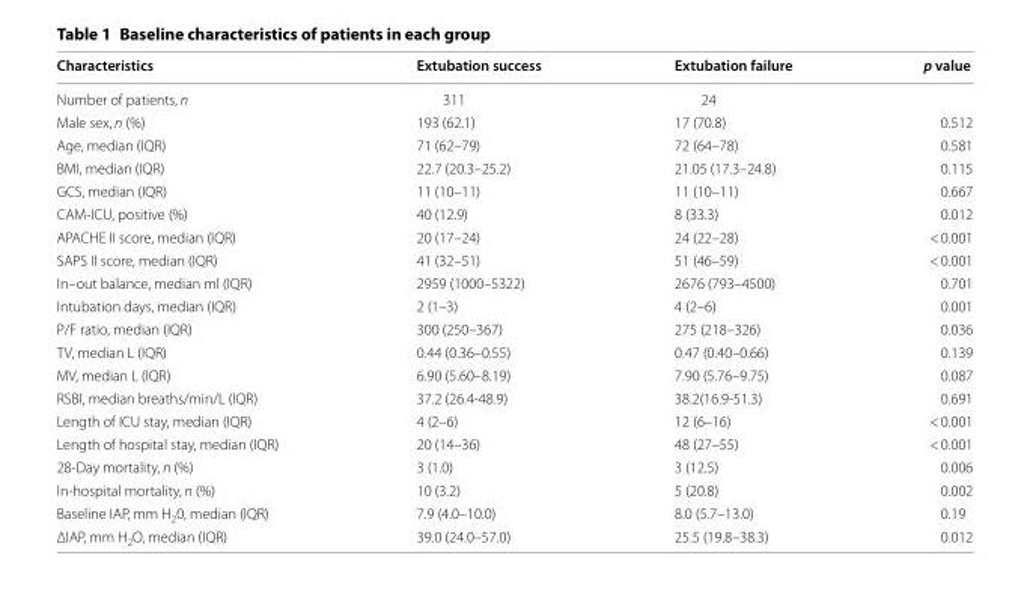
<table><thead><tr><td>Characteristics</td><td>Extubation success</td><td>Extubation failure</td><td>p value</td></tr></thead><tbody><tr><td>Number of patients, n</td><td>311</td><td>24</td><td></td></tr><tr><td>Male sex, n (%)</td><td>193 (62.1)</td><td>17 (70.8)</td><td>0.512</td></tr><tr><td>Age, median (IQR)</td><td>71 (62–79)</td><td>72 (64–78)</td><td>0.581</td></tr><tr><td>BMI, median (IQR)</td><td>22.7 (20.3–25.2)</td><td>21.05 (17.3–24.8)</td><td>0.115</td></tr><tr><td>GCS, median (IQR)</td><td>11 (10–11)</td><td>11 (10–11)</td><td>0.667</td></tr><tr><td>CAM-ICU, positive (%)</td><td>40 (12.9)</td><td>8 (33.3)</td><td>0.012</td></tr><tr><td>APACHE II score, median (IQR)</td><td>20 (17–24)</td><td>24 (22–28)</td><td>&lt; 0.001</td></tr><tr><td>SAPS II score, median (IQR)</td><td>41 (32–51)</td><td>51 (46–59)</td><td>&lt; 0.001</td></tr><tr><td>In–out balance, median ml (IQR)</td><td>2959 (1000–5322)</td><td>2676 (793–4500)</td><td>0.701</td></tr><tr><td>Intubation days, median (IQR)</td><td>2 (1–3)</td><td>4 (2–6)</td><td>0.001</td></tr><tr><td>P/F ratio, median (IQR)</td><td>300 (250–367)</td><td>275 (218–326)</td><td>0.036</td></tr><tr><td>TV, median L (IQR)</td><td>0.44 (0.36–0.55)</td><td>0.47 (0.40–0.66)</td><td>0.139</td></tr><tr><td>MV, median L (IQR)</td><td>6.90 (5.60–8.19)</td><td>7.90 (5.76–9.75)</td><td>0.087</td></tr><tr><td>RSBI, median breaths/min/L (IQR)</td><td>37.2 (26.4-48.9)</td><td>38.2(16.9-51.3)</td><td>0.691</td></tr><tr><td>Length of ICU stay, median (IQR)</td><td>4 (2–6)</td><td>12 (6–16)</td><td>&lt; 0.001</td></tr><tr><td>Length of hospital stay, median (IQR)</td><td>20 (14–36)</td><td>48 (27–55)</td><td>&lt; 0.001</td></tr><tr><td>28-Day mortality, n (%)</td><td>3 (1.0)</td><td>3 (12.5)</td><td>0.006</td></tr><tr><td>In-hospital mortality, n (%)</td><td>10 (3.2)</td><td>5 (20.8)</td><td>0.002</td></tr><tr><td>Baseline IAP, mm H<sub>2</sub>0, median (IQR)</td><td>7.9 (4.0–10.0)</td><td>8.0 (5.7–13.0)</td><td>0.19</td></tr><tr><td>ΔIAP, mm H<sub>2</sub>O, median (IQR)</td><td>39.0 (24.0–57.0)</td><td>25.5 (19.8–38.3)</td><td>0.012</td></tr></tbody></table>